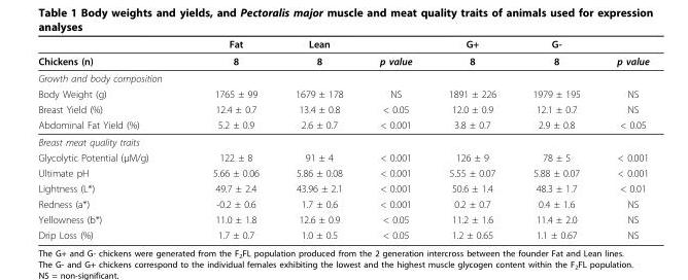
<table><thead><tr><td></td><td>Fat</td><td>Lean</td><td></td><td>G+</td><td>G-</td><td></td></tr></thead><tbody><tr><td>Chickens (n)</td><td>8</td><td>8</td><td>p value</td><td>8</td><td>8</td><td>p value</td></tr><tr><td colspan="7">Growth and body composition</td></tr><tr><td>Body Weight (g)</td><td>1765 ± 99</td><td>1679 ± 178</td><td>NS</td><td>1891 ± 226</td><td>1979 ± 195</td><td>NS</td></tr><tr><td>Breast Yield (%)</td><td>12.4 ± 0.7</td><td>13.4 ± 0.8</td><td>&lt; 0.05</td><td>12.0 ± 0.9</td><td>12.1 ± 0.7</td><td>NS</td></tr><tr><td>Abdominal Fat Yield (%)</td><td>5.2 ± 0.9</td><td>2.6 ± 0.7</td><td>&lt; 0.001</td><td>3.8 ± 0.7</td><td>2.9 ± 0.8</td><td>&lt; 0.05</td></tr><tr><td colspan="7">Breast meat quality traits</td></tr><tr><td>Glycolytic Potential (μM/g)</td><td>122 ± 8</td><td>91 ± 4</td><td>&lt; 0.001</td><td>126 ± 9</td><td>78 ± 5</td><td>&lt; 0.001</td></tr><tr><td>Ultimate pH</td><td>5.66 ± 0.06</td><td>5.86 ± 0.08</td><td>&lt; 0.001</td><td>5.55 ± 0.07</td><td>5.88 ± 0.07</td><td>&lt; 0.001</td></tr><tr><td>Lightness (L*)</td><td>49.7 ± 2.4</td><td>43.96 ± 2.1</td><td>&lt; 0.001</td><td>50.6 ± 1.4</td><td>48.3 ± 1.7</td><td>&lt; 0.01</td></tr><tr><td>Redness (a*)</td><td>-0.2 ± 0.6</td><td>1.7 ± 0.6</td><td>&lt; 0.001</td><td>0.2 ± 0.7</td><td>0.4 ± 1.6</td><td>NS</td></tr><tr><td>Yellowness (b*)</td><td>11.0 ± 1.8</td><td>12.6 ± 0.9</td><td>&lt; 0.05</td><td>11.2 ± 1.6</td><td>11.4 ± 2.0</td><td>NS</td></tr><tr><td>Drip Loss (%)</td><td>1.7 ± 0.7</td><td>1.0 ± 0.5</td><td>&lt; 0.05</td><td>1.2 ± 0.65</td><td>1.1 ± 0.67</td><td>NS</td></tr></tbody></table>